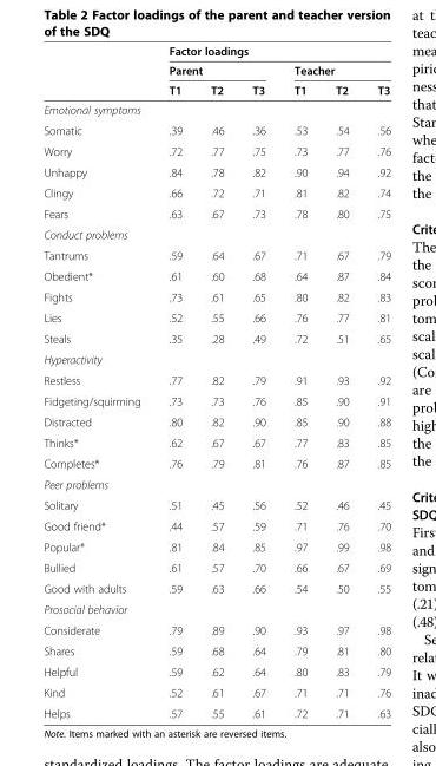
<table><thead><tr><td rowspan="3"></td><td colspan="6">Factor loadings</td></tr><tr><td colspan="3">Parent</td><td colspan="3">Teacher</td></tr><tr><td>T1</td><td>T2</td><td>T3</td><td>T1</td><td>T2</td><td>T3</td></tr></thead><tbody><tr><td colspan="7">Emotional symptoms</td></tr><tr><td>Somatic</td><td>.39</td><td>.46</td><td>.36</td><td>.53</td><td>.54</td><td>.56</td></tr><tr><td>Worry</td><td>.72</td><td>.77</td><td>.75</td><td>.73</td><td>.77</td><td>.76</td></tr><tr><td>Unhappy</td><td>.84</td><td>.78</td><td>.82</td><td>.90</td><td>.94</td><td>.92</td></tr><tr><td>Clingy</td><td>.66</td><td>.72</td><td>.71</td><td>.81</td><td>.82</td><td>.74</td></tr><tr><td>Fears</td><td>.63</td><td>.67</td><td>.73</td><td>.78</td><td>.80</td><td>.75</td></tr><tr><td colspan="7">Conduct problems</td></tr><tr><td>Tantrums</td><td>.59</td><td>.64</td><td>.67</td><td>.71</td><td>.67</td><td>.79</td></tr><tr><td>Obedient*</td><td>.61</td><td>.60</td><td>.68</td><td>.64</td><td>.87</td><td>.84</td></tr><tr><td>Fights</td><td>.73</td><td>.61</td><td>.65</td><td>.80</td><td>.82</td><td>.83</td></tr><tr><td>Lies</td><td>.52</td><td>.55</td><td>.66</td><td>.76</td><td>.77</td><td>.81</td></tr><tr><td>Steals</td><td>.35</td><td>.28</td><td>.49</td><td>.72</td><td>.51</td><td>.65</td></tr><tr><td colspan="7">Hyperactivity</td></tr><tr><td>Restless</td><td>.77</td><td>.82</td><td>.79</td><td>.91</td><td>.93</td><td>.92</td></tr><tr><td>Fidgeting/squirming</td><td>.73</td><td>.73</td><td>.76</td><td>.85</td><td>.90</td><td>.91</td></tr><tr><td>Distracted</td><td>.80</td><td>.82</td><td>.90</td><td>.85</td><td>.90</td><td>.88</td></tr><tr><td>Thinks*</td><td>.62</td><td>.67</td><td>.67</td><td>.77</td><td>.83</td><td>.85</td></tr><tr><td>Completes*</td><td>.76</td><td>.79</td><td>.81</td><td>.76</td><td>.87</td><td>.85</td></tr><tr><td colspan="7">Peer problems</td></tr><tr><td>Solitary</td><td>.51</td><td>.45</td><td>.56</td><td>.52</td><td>.46</td><td>.45</td></tr><tr><td>Good friend*</td><td>.44</td><td>.57</td><td>.59</td><td>.71</td><td>.76</td><td>.70</td></tr><tr><td>Popular*</td><td>.81</td><td>.84</td><td>.85</td><td>.97</td><td>.99</td><td>.98</td></tr><tr><td>Bullied</td><td>.61</td><td>.57</td><td>.70</td><td>.66</td><td>.67</td><td>.69</td></tr><tr><td>Good with adults</td><td>.59</td><td>.63</td><td>.66</td><td>.54</td><td>.50</td><td>.55</td></tr><tr><td colspan="7">Prosocial behavior</td></tr><tr><td>Considerate</td><td>.79</td><td>.89</td><td>.90</td><td>.93</td><td>.97</td><td>.98</td></tr><tr><td>Shares</td><td>.59</td><td>.68</td><td>.64</td><td>.79</td><td>.81</td><td>.80</td></tr><tr><td>Helpful</td><td>.59</td><td>.62</td><td>.64</td><td>.80</td><td>.83</td><td>.79</td></tr><tr><td>Kind</td><td>.52</td><td>.61</td><td>.67</td><td>.71</td><td>.71</td><td>.76</td></tr><tr><td>Helps</td><td>.57</td><td>.55</td><td>.61</td><td>.72</td><td>.71</td><td>.63</td></tr></tbody></table>